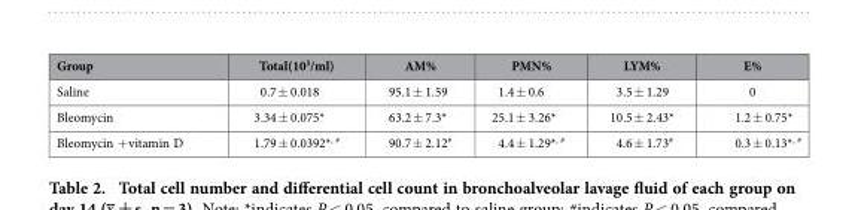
<table><thead><tr><td>Group</td><td>Total(10<sup>5</sup>/ml)</td><td>AM%</td><td>PMN%</td><td>LYM%</td><td>E%</td></tr></thead><tbody><tr><td>Saline</td><td>0.7 ± 0.018</td><td>95.1 ± 1.59</td><td>1.4 ± 0.6</td><td>3.5 ± 1.29</td><td>0</td></tr><tr><td>Bleomycin</td><td>3.34 ± 0.075*</td><td>63.2 ± 7.3*</td><td>25.1 ± 3.26*</td><td>10.5 ± 2.43*</td><td>1.2 ± 0.75*</td></tr><tr><td>Bleomycin + vitamin D</td><td>1.79 ± 0.0392*<sup>, #</sup></td><td>90.7 ± 2.12<sup>#</sup></td><td>4.4 ± 1.29*<sup>, #</sup></td><td>4.6 ± 1.73<sup>#</sup></td><td>0.3 ± 0.13*<sup>, #</sup></td></tr></tbody></table>